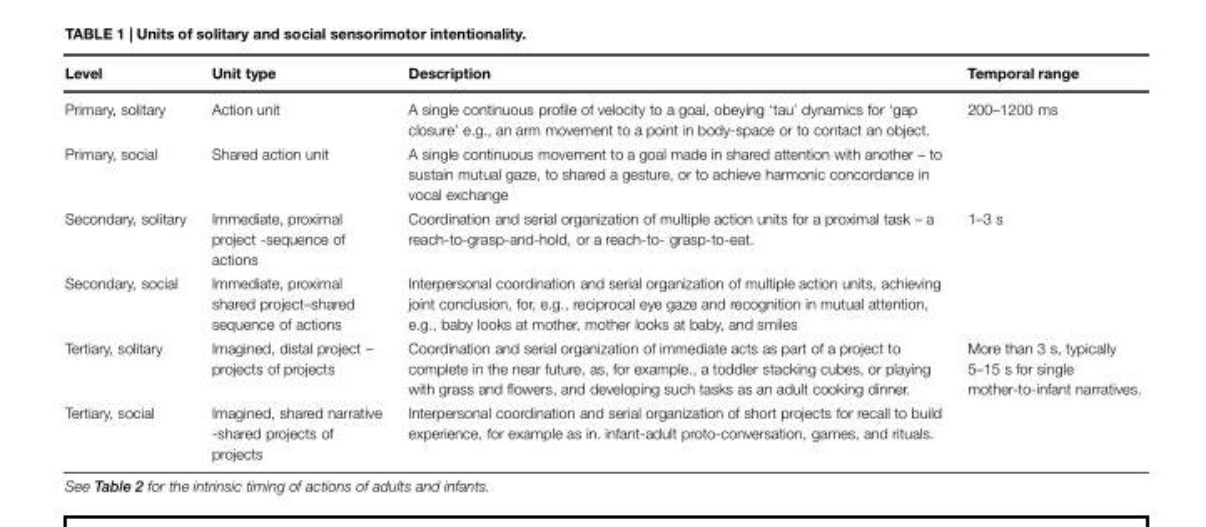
<table><thead><tr><td>Level</td><td>Unit type</td><td>Description</td><td>Temporal range</td></tr></thead><tbody><tr><td>Primary, solitary</td><td>Action unit</td><td>A single continuous profile of velocity to a goal, obeying ‘tau’ dynamics for ‘gap closure’ e.g., an arm movement to a point in body-space or to contact an object.</td><td>200–1200 ms</td></tr><tr><td>Primary, social</td><td>Shared action unit</td><td>A single continuous movement to a goal made in shared attention with another – to sustain mutual gaze, to shared a gesture, or to achieve harmonic concordance in vocal exchange</td><td></td></tr><tr><td>Secondary, solitary</td><td>Immediate, proximal project -sequence of actions</td><td>Coordination and serial organization of multiple action units for a proximal task – a reach-to-grasp-and-hold, or a reach-to- grasp-to-eat.</td><td>1–3 s</td></tr><tr><td>Secondary, social</td><td>Immediate, proximal shared project–shared sequence of actions</td><td>Interpersonal coordination and serial organization of multiple action units, achieving joint conclusion, for, e.g., reciprocal eye gaze and recognition in mutual attention, e.g., baby looks at mother, mother looks at baby, and smiles</td><td></td></tr><tr><td>Tertiary, solitary</td><td>Imagined, distal project – projects of projects</td><td>Coordination and serial organization of immediate acts as part of a project to complete in the near future, as, for example., a toddler stacking cubes, or playing with grass and flowers, and developing such tasks as an adult cooking dinner.</td><td>More than 3 s, typically 5–15 s for single mother-to-infant narratives.</td></tr><tr><td>Tertiary, social</td><td>Imagined, shared narrative -shared projects of projects</td><td>Interpersonal coordination and serial organization of short projects for recall to build experience, for example as in. infant-adult proto-conversation, games, and rituals.</td><td></td></tr></tbody></table>